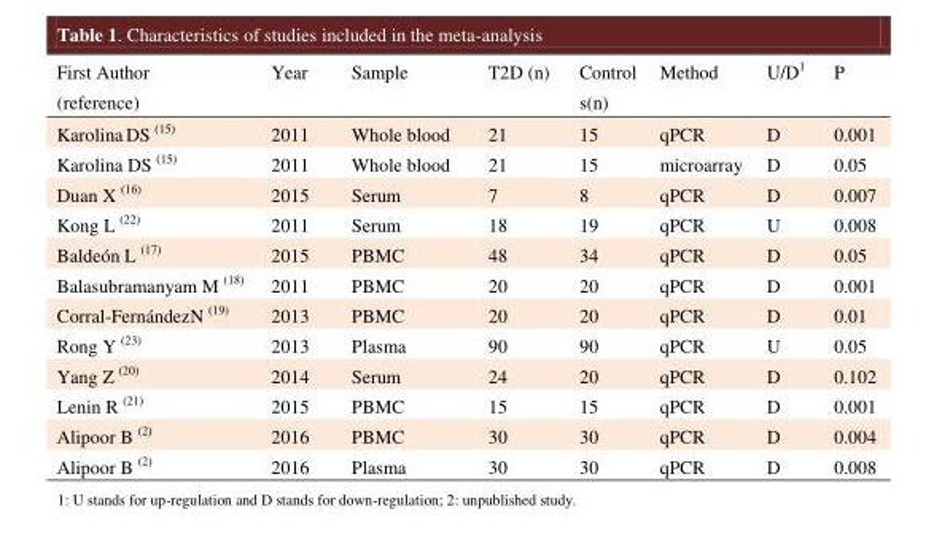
<table><thead><tr><td>First Author (reference)</td><td>Year</td><td>Sample</td><td>T2D (n)</td><td>Control s(n)</td><td>Method</td><td>U/D<sup>1</sup></td><td>P</td></tr></thead><tbody><tr><td>Karolina DS <sup>(15)</sup></td><td>2011</td><td>Whole blood</td><td>21</td><td>15</td><td>qPCR</td><td>D</td><td>0.001</td></tr><tr><td>Karolina DS <sup>(15)</sup></td><td>2011</td><td>Whole blood</td><td>21</td><td>15</td><td>microarray</td><td>D</td><td>0.05</td></tr><tr><td>Duan X <sup>(16)</sup></td><td>2015</td><td>Serum</td><td>7</td><td>8</td><td>qPCR</td><td>D</td><td>0.007</td></tr><tr><td>Kong L <sup>(22)</sup></td><td>2011</td><td>Serum</td><td>18</td><td>19</td><td>qPCR</td><td>U</td><td>0.008</td></tr><tr><td>Baldeón L <sup>(17)</sup></td><td>2015</td><td>PBMC</td><td>48</td><td>34</td><td>qPCR</td><td>D</td><td>0.05</td></tr><tr><td>Balasubramanyam M <sup>(18)</sup></td><td>2011</td><td>PBMC</td><td>20</td><td>20</td><td>qPCR</td><td>D</td><td>0.001</td></tr><tr><td>Corral-FernándezN <sup>(19)</sup></td><td>2013</td><td>PBMC</td><td>20</td><td>20</td><td>qPCR</td><td>D</td><td>0.01</td></tr><tr><td>Rong Y <sup>(23)</sup></td><td>2013</td><td>Plasma</td><td>90</td><td>90</td><td>qPCR</td><td>U</td><td>0.05</td></tr><tr><td>Yang Z <sup>(20)</sup></td><td>2014</td><td>Serum</td><td>24</td><td>20</td><td>qPCR</td><td>D</td><td>0.102</td></tr><tr><td>Lenin R <sup>(21)</sup></td><td>2015</td><td>PBMC</td><td>15</td><td>15</td><td>qPCR</td><td>D</td><td>0.001</td></tr><tr><td>Alipoor B <sup>(2)</sup></td><td>2016</td><td>PBMC</td><td>30</td><td>30</td><td>qPCR</td><td>D</td><td>0.004</td></tr><tr><td>Alipoor B <sup>(2)</sup></td><td>2016</td><td>Plasma</td><td>30</td><td>30</td><td>qPCR</td><td>D</td><td>0.008</td></tr></tbody></table>